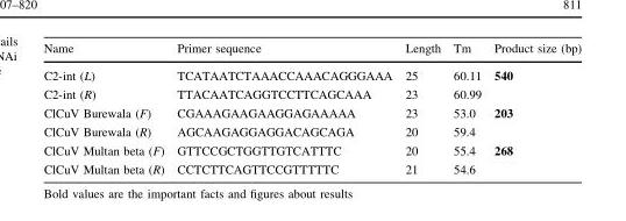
<table><thead><tr><td>Name</td><td>Primer sequence</td><td>Length</td><td>Tm</td><td>Product size (bp)</td></tr></thead><tbody><tr><td>C2-int (L)</td><td>TCATAATCTAAACCAAACAGGGAAA</td><td>25</td><td>60.11</td><td rowspan="2">540</td></tr><tr><td>C2-int (R)</td><td>TTACAATCAGGTCCTTCAGCAAA</td><td>23</td><td>60.99</td></tr><tr><td>ClCuV Burewala (F)</td><td>CGAAAGAAGAAGGAGAAAAA</td><td>23</td><td>53.0</td><td rowspan="2">203</td></tr><tr><td>ClCuV Burewala (R)</td><td>AGCAAGAGGAGGACAGCAGA</td><td>20</td><td>59.4</td></tr><tr><td>ClCuV Multan beta (F)</td><td>GTTCCGCTGGTTGTCATTTC</td><td>20</td><td>55.4</td><td rowspan="2">268</td></tr><tr><td>ClCuV Multan beta (R)</td><td>CCTCTTCAGTTCCGTTTTTC</td><td>21</td><td>54.6</td></tr></tbody></table>